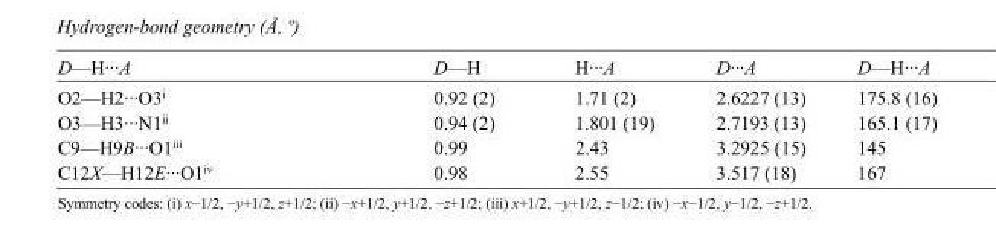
<table><tbody><tr><td>D—H···A</td><td>D—H</td><td>H···A</td><td>D···A</td><td>D—H···A</td></tr><tr><td>O2—H2···O3<sup>i</sup></td><td>0.92 (2)</td><td>1.71 (2)</td><td>2.6227 (13)</td><td>175.8 (16)</td></tr><tr><td>O3—H3···N1<sup>ii</sup></td><td>0.94 (2)</td><td>1.801 (19)</td><td>2.7193 (13)</td><td>165.1 (17)</td></tr><tr><td>C9—H9B···O1<sup>iii</sup></td><td>0.99</td><td>2.43</td><td>3.2925 (15)</td><td>145</td></tr><tr><td>C12X—H12E···O1<sup>iv</sup></td><td>0.98</td><td>2.55</td><td>3.517 (18)</td><td>167</td></tr></tbody></table>